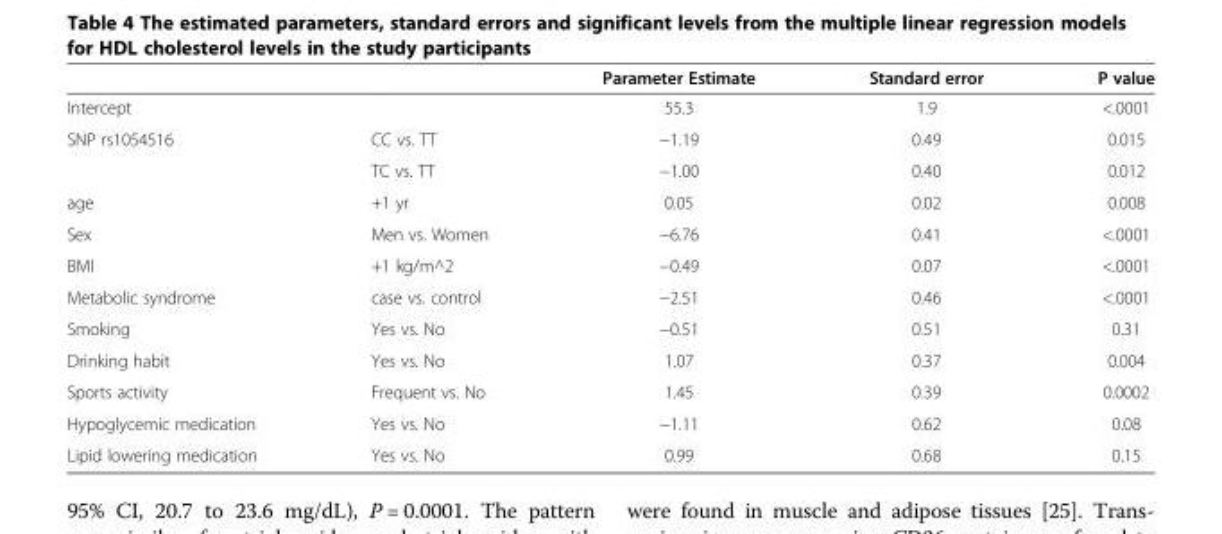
<table><thead><tr><td></td><td></td><td>Parameter Estimate</td><td>Standard error</td><td>P value</td></tr></thead><tbody><tr><td>Intercept</td><td></td><td>55.3</td><td>1.9</td><td>&lt;.0001</td></tr><tr><td rowspan="2">SNP rs1054516</td><td>CC vs. TT</td><td>−1.19</td><td>0.49</td><td>0.015</td></tr><tr><td>TC vs. TT</td><td>−1.00</td><td>0.40</td><td>0.012</td></tr><tr><td>age</td><td>+1 yr</td><td>0.05</td><td>0.02</td><td>0.008</td></tr><tr><td>Sex</td><td>Men vs. Women</td><td>−6.76</td><td>0.41</td><td>&lt;.0001</td></tr><tr><td>BMI</td><td>+1 kg/m^2</td><td>−0.49</td><td>0.07</td><td>&lt;.0001</td></tr><tr><td>Metabolic syndrome</td><td>case vs. control</td><td>−2.51</td><td>0.46</td><td>&lt;.0001</td></tr><tr><td>Smoking</td><td>Yes vs. No</td><td>−0.51</td><td>0.51</td><td>0.31</td></tr><tr><td>Drinking habit</td><td>Yes vs. No</td><td>1.07</td><td>0.37</td><td>0.004</td></tr><tr><td>Sports activity</td><td>Frequent vs. No</td><td>1.45</td><td>0.39</td><td>0.0002</td></tr><tr><td>Hypoglycemic medication</td><td>Yes vs. No</td><td>−1.11</td><td>0.62</td><td>0.08</td></tr><tr><td>Lipid lowering medication</td><td>Yes vs. No</td><td>0.99</td><td>0.68</td><td>0.15</td></tr></tbody></table>